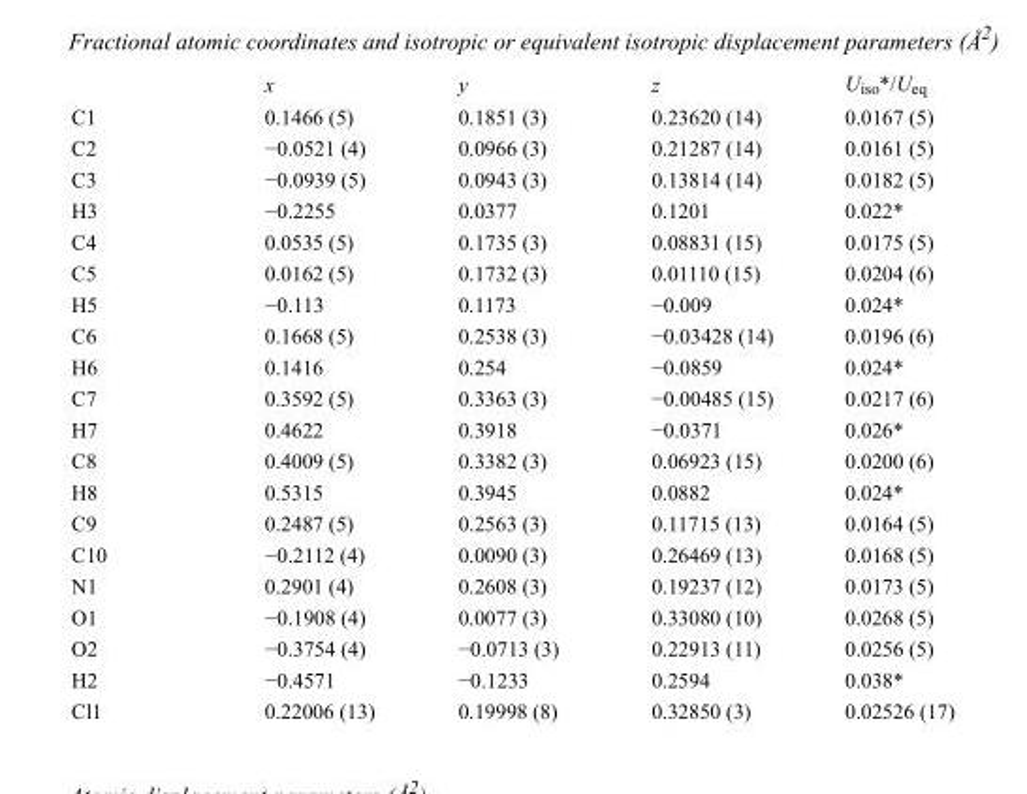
<table><thead><tr><td></td><td>x</td><td>y</td><td>z</td><td>U<sub>iso</sub>*/U<sub>eq</sub></td></tr></thead><tbody><tr><td>C1</td><td>0.1466 (5)</td><td>0.1851 (3)</td><td>0.23620 (14)</td><td>0.0167 (5)</td></tr><tr><td>C2</td><td>−0.0521 (4)</td><td>0.0966 (3)</td><td>0.21287 (14)</td><td>0.0161 (5)</td></tr><tr><td>C3</td><td>−0.0939 (5)</td><td>0.0943 (3)</td><td>0.13814 (14)</td><td>0.0182 (5)</td></tr><tr><td>H3</td><td>−0.2255</td><td>0.0377</td><td>0.1201</td><td>0.022*</td></tr><tr><td>C4</td><td>0.0535 (5)</td><td>0.1735 (3)</td><td>0.08831 (15)</td><td>0.0175 (5)</td></tr><tr><td>C5</td><td>0.0162 (5)</td><td>0.1732 (3)</td><td>0.01110 (15)</td><td>0.0204 (6)</td></tr><tr><td>H5</td><td>−0.113</td><td>0.1173</td><td>−0.009</td><td>0.024*</td></tr><tr><td>C6</td><td>0.1668 (5)</td><td>0.2538 (3)</td><td>−0.03428 (14)</td><td>0.0196 (6)</td></tr><tr><td>H6</td><td>0.1416</td><td>0.254</td><td>−0.0859</td><td>0.024*</td></tr><tr><td>C7</td><td>0.3592 (5)</td><td>0.3363 (3)</td><td>−0.00485 (15)</td><td>0.0217 (6)</td></tr><tr><td>H7</td><td>0.4622</td><td>0.3918</td><td>−0.0371</td><td>0.026*</td></tr><tr><td>C8</td><td>0.4009 (5)</td><td>0.3382 (3)</td><td>0.06923 (15)</td><td>0.0200 (6)</td></tr><tr><td>H8</td><td>0.5315</td><td>0.3945</td><td>0.0882</td><td>0.024*</td></tr><tr><td>C9</td><td>0.2487 (5)</td><td>0.2563 (3)</td><td>0.11715 (13)</td><td>0.0164 (5)</td></tr><tr><td>C10</td><td>−0.2112 (4)</td><td>0.0090 (3)</td><td>0.26469 (13)</td><td>0.0168 (5)</td></tr><tr><td>N1</td><td>0.2901 (4)</td><td>0.2608 (3)</td><td>0.19237 (12)</td><td>0.0173 (5)</td></tr><tr><td>O1</td><td>−0.1908 (4)</td><td>0.0077 (3)</td><td>0.33080 (10)</td><td>0.0268 (5)</td></tr><tr><td>O2</td><td>−0.3754 (4)</td><td>−0.0713 (3)</td><td>0.22913 (11)</td><td>0.0256 (5)</td></tr><tr><td>H2</td><td>−0.4571</td><td>−0.1233</td><td>0.2594</td><td>0.038*</td></tr><tr><td>Cl1</td><td>0.22006 (13)</td><td>0.19998 (8)</td><td>0.32850 (3)</td><td>0.02526 (17)</td></tr></tbody></table>